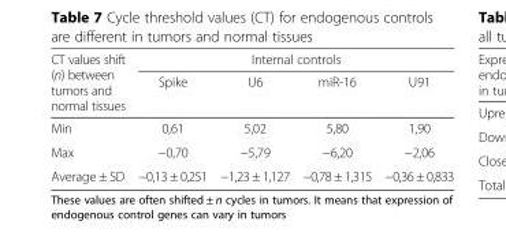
<table><thead><tr><td rowspan="2">CT values shift (n) between tumors and normal tissues</td><td colspan="4">Internal controls</td></tr><tr><td>Spike</td><td>U6</td><td>miR-16</td><td>U91</td></tr></thead><tbody><tr><td>Min</td><td>0,61</td><td>5,02</td><td>5,80</td><td>1,90</td></tr><tr><td>Max</td><td>−0,70</td><td>−5,79</td><td>−6,20</td><td>−2,06</td></tr><tr><td>Average ± SD</td><td>−0,13 ± 0,251</td><td>−1,23 ± 1,127</td><td>−0,78 ± 1,315</td><td>−0,36 ± 0,833</td></tr></tbody></table>